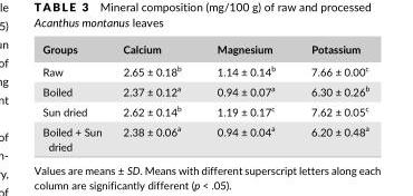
<table><thead><tr><td>Groups</td><td>Calcium</td><td>Magnesium</td><td>Potassium</td></tr></thead><tbody><tr><td>Raw</td><td>2.65 ± 0.18<sup>b</sup></td><td>1.14 ± 0.14<sup>b</sup></td><td>7.66 ± 0.00<sup>c</sup></td></tr><tr><td>Boiled</td><td>2.37 ± 0.12<sup>a</sup></td><td>0.94 ± 0.07<sup>a</sup></td><td>6.30 ± 0.26<sup>b</sup></td></tr><tr><td>Sun dried</td><td>2.62 ± 0.14<sup>b</sup></td><td>1.19 ± 0.17<sup>c</sup></td><td>7.62 ± 0.05<sup>c</sup></td></tr><tr><td>Boiled + Sun dried</td><td>2.38 ± 0.06<sup>a</sup></td><td>0.94 ± 0.04<sup>a</sup></td><td>6.20 ± 0.48<sup>a</sup></td></tr></tbody></table>